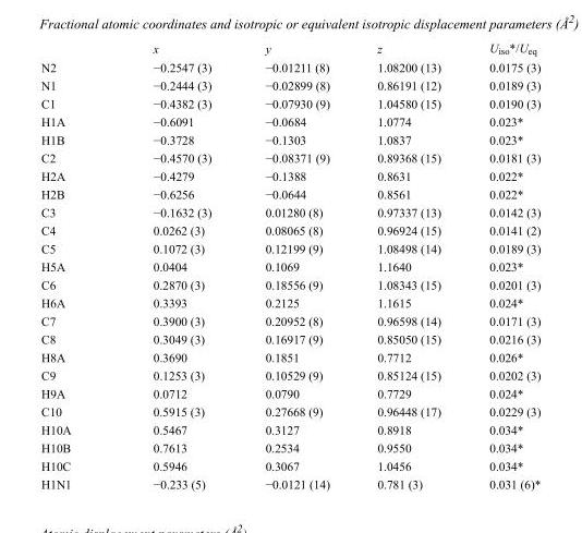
<table><thead><tr><td></td><td>x</td><td>y</td><td>z</td><td>U<sub>iso</sub>*/U<sub>eq</sub></td></tr></thead><tbody><tr><td>N2</td><td>−0.2547 (3)</td><td>−0.01211 (8)</td><td>1.08200 (13)</td><td>0.0175 (3)</td></tr><tr><td>N1</td><td>−0.2444 (3)</td><td>−0.02899 (8)</td><td>0.86191 (12)</td><td>0.0189 (3)</td></tr><tr><td>C1</td><td>−0.4382 (3)</td><td>−0.07930 (9)</td><td>1.04580 (15)</td><td>0.0190 (3)</td></tr><tr><td>H1A</td><td>−0.6091</td><td>−0.0684</td><td>1.0774</td><td>0.023*</td></tr><tr><td>H1B</td><td>−0.3728</td><td>−0.1303</td><td>1.0837</td><td>0.023*</td></tr><tr><td>C2</td><td>−0.4570 (3)</td><td>−0.08371 (9)</td><td>0.89368 (15)</td><td>0.0181 (3)</td></tr><tr><td>H2A</td><td>−0.4279</td><td>−0.1388</td><td>0.8631</td><td>0.022*</td></tr><tr><td>H2B</td><td>−0.6256</td><td>−0.0644</td><td>0.8561</td><td>0.022*</td></tr><tr><td>C3</td><td>−0.1632 (3)</td><td>0.01280 (8)</td><td>0.97337 (13)</td><td>0.0142 (3)</td></tr><tr><td>C4</td><td>0.0262 (3)</td><td>0.08065 (8)</td><td>0.96924 (15)</td><td>0.0141 (2)</td></tr><tr><td>C5</td><td>0.1072 (3)</td><td>0.12199 (9)</td><td>1.08498 (14)</td><td>0.0189 (3)</td></tr><tr><td>H5A</td><td>0.0404</td><td>0.1069</td><td>1.1640</td><td>0.023*</td></tr><tr><td>C6</td><td>0.2870 (3)</td><td>0.18556 (9)</td><td>1.08343 (15)</td><td>0.0201 (3)</td></tr><tr><td>H6A</td><td>0.3393</td><td>0.2125</td><td>1.1615</td><td>0.024*</td></tr><tr><td>C7</td><td>0.3900 (3)</td><td>0.20952 (8)</td><td>0.96598 (14)</td><td>0.0171 (3)</td></tr><tr><td>C8</td><td>0.3049 (3)</td><td>0.16917 (9)</td><td>0.85050 (15)</td><td>0.0216 (3)</td></tr><tr><td>H8A</td><td>0.3690</td><td>0.1851</td><td>0.7712</td><td>0.026*</td></tr><tr><td>C9</td><td>0.1253 (3)</td><td>0.10529 (9)</td><td>0.85124 (15)</td><td>0.0202 (3)</td></tr><tr><td>H9A</td><td>0.0712</td><td>0.0790</td><td>0.7729</td><td>0.024*</td></tr><tr><td>C10</td><td>0.5915 (3)</td><td>0.27668 (9)</td><td>0.96448 (17)</td><td>0.0229 (3)</td></tr><tr><td>H10A</td><td>0.5467</td><td>0.3127</td><td>0.8918</td><td>0.034*</td></tr><tr><td>H10B</td><td>0.7613</td><td>0.2534</td><td>0.9550</td><td>0.034*</td></tr><tr><td>H10C</td><td>0.5946</td><td>0.3067</td><td>1.0456</td><td>0.034*</td></tr><tr><td>H1N1</td><td>−0.233 (5)</td><td>−0.0121 (14)</td><td>0.781 (3)</td><td>0.031 (6)*</td></tr></tbody></table>